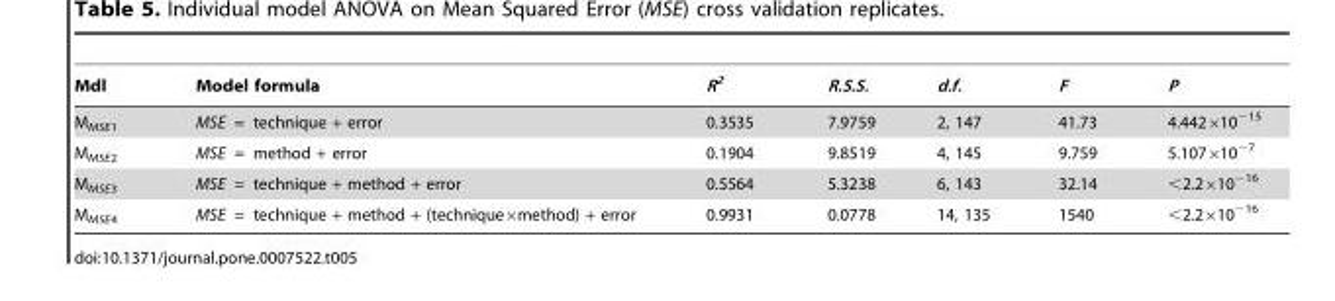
<table><thead><tr><td>Mdl</td><td>Model formula</td><td>R<sup>2</sup></td><td>R.S.S.</td><td>d.f.</td><td>F</td><td>P</td></tr></thead><tbody><tr><td>M<sub>MSE1</sub></td><td>MSE = technique + error</td><td>0.3535</td><td>7.9759</td><td>2, 147</td><td>41.73</td><td>4.442×10<sup>−15</sup></td></tr><tr><td>M<sub>MSE2</sub></td><td>MSE = method + error</td><td>0.1904</td><td>9.8519</td><td>4, 145</td><td>9.759</td><td>5.107×10<sup>−7</sup></td></tr><tr><td>M<sub>MSE3</sub></td><td>MSE = technique + method + error</td><td>0.5564</td><td>5.3238</td><td>6, 143</td><td>32.14</td><td>&lt;2.2×10<sup>−16</sup></td></tr><tr><td>M<sub>MSE4</sub></td><td>MSE = technique + method + (technique×method) + error</td><td>0.9931</td><td>0.0778</td><td>14, 135</td><td>1540</td><td>&lt;2.2×10<sup>−16</sup></td></tr></tbody></table>